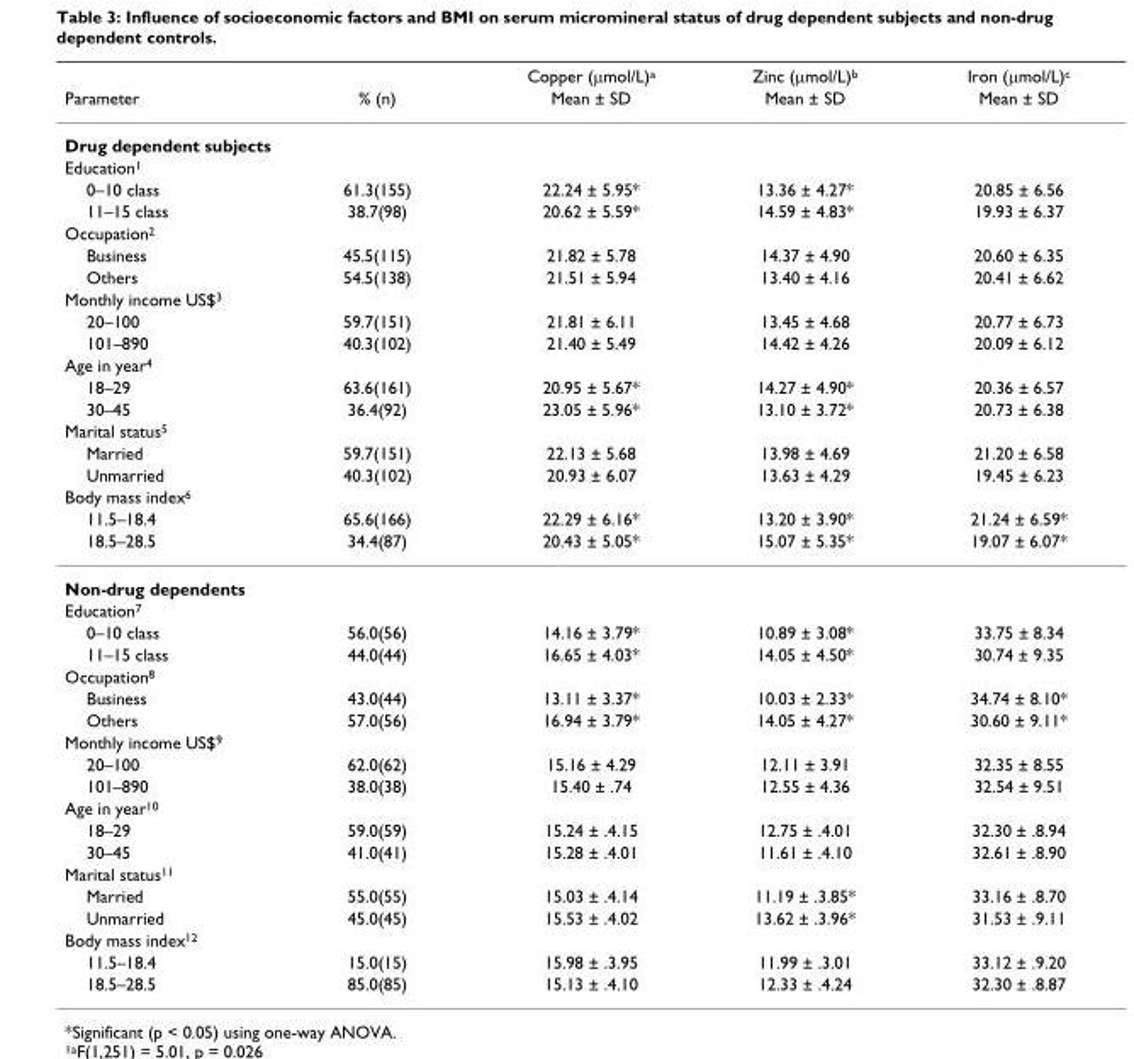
<table><thead><tr><td rowspan="2">Parameter</td><td rowspan="2">% (n)</td><td rowspan="2">Copper (μmol/L)<sup>a</sup> Mean ± SD</td><td rowspan="2">Zinc (μmol/L)<sup>b</sup> Mean ± SD</td><td rowspan="2">Iron (μmol/L)<sup>c</sup> Mean ± SD</td></tr><tr></tr></thead><tbody><tr><td colspan="5">Drug dependent subjects</td></tr><tr><td colspan="5">Education<sup>1</sup></td></tr><tr><td>0–10 class</td><td>61.3(155)</td><td>22.24 ± 5.95*</td><td>13.36 ± 4.27*</td><td>20.85 ± 6.56</td></tr><tr><td>11–15 class</td><td>38.7(98)</td><td>20.62 ± 5.59*</td><td>14.59 ± 4.83*</td><td>19.93 ± 6.37</td></tr><tr><td colspan="5">Occupation<sup>2</sup></td></tr><tr><td>Business</td><td>45.5(115)</td><td>21.82 ± 5.78</td><td>14.37 ± 4.90</td><td>20.60 ± 6.35</td></tr><tr><td>Others</td><td>54.5(138)</td><td>21.51 ± 5.94</td><td>13.40 ± 4.16</td><td>20.41 ± 6.62</td></tr><tr><td colspan="5">Monthly income US$<sup>3</sup></td></tr><tr><td>20–100</td><td>59.7(151)</td><td>21.81 ± 6.11</td><td>13.45 ± 4.68</td><td>20.77 ± 6.73</td></tr><tr><td>101–890</td><td>40.3(102)</td><td>21.40 ± 5.49</td><td>14.42 ± 4.26</td><td>20.09 ± 6.12</td></tr><tr><td colspan="5">Age in year<sup>4</sup></td></tr><tr><td>18–29</td><td>63.6(161)</td><td>20.95 ± 5.67*</td><td>14.27 ± 4.90*</td><td>20.36 ± 6.57</td></tr><tr><td>30–45</td><td>36.4(92)</td><td>23.05 ± 5.96*</td><td>13.10 ± 3.72*</td><td>20.73 ± 6.38</td></tr><tr><td colspan="5">Marital status<sup>5</sup></td></tr><tr><td>Married</td><td>59.7(151)</td><td>22.13 ± 5.68</td><td>13.98 ± 4.69</td><td>21.20 ± 6.58</td></tr><tr><td>Unmarried</td><td>40.3(102)</td><td>20.93 ± 6.07</td><td>13.63 ± 4.29</td><td>19.45 ± 6.23</td></tr><tr><td colspan="5">Body mass index<sup>6</sup></td></tr><tr><td>11.5–18.4</td><td>65.6(166)</td><td>22.29 ± 6.16*</td><td>13.20 ± 3.90*</td><td>21.24 ± 6.59*</td></tr><tr><td>18.5–28.5</td><td>34.4(87)</td><td>20.43 ± 5.05*</td><td>15.07 ± 5.35*</td><td>19.07 ± 6.07*</td></tr><tr><td colspan="5">Non-drug dependents</td></tr><tr><td colspan="5">Education<sup>7</sup></td></tr><tr><td>0–10 class</td><td>56.0(56)</td><td>14.16 ± 3.79*</td><td>10.89 ± 3.08*</td><td>33.75 ± 8.34</td></tr><tr><td>11–15 class</td><td>44.0(44)</td><td>16.65 ± 4.03*</td><td>14.05 ± 4.50*</td><td>30.74 ± 9.35</td></tr><tr><td colspan="5">Occupation<sup>8</sup></td></tr><tr><td>Business</td><td>43.0(44)</td><td>13.11 ± 3.37*</td><td>10.03 ± 2.33*</td><td>34.74 ± 8.10*</td></tr><tr><td>Others</td><td>57.0(56)</td><td>16.94 ± 3.79*</td><td>14.05 ± 4.27*</td><td>30.60 ± 9.11*</td></tr><tr><td colspan="5">Monthly income US$<sup>9</sup></td></tr><tr><td>20–100</td><td>62.0(62)</td><td>15.16 ± 4.29</td><td>12.11 ± 3.91</td><td>32.35 ± 8.55</td></tr><tr><td>101–890</td><td>38.0(38)</td><td>15.40 ± .74</td><td>12.55 ± 4.36</td><td>32.54 ± 9.51</td></tr><tr><td colspan="5">Age in year<sup>10</sup></td></tr><tr><td>18–29</td><td>59.0(59)</td><td>15.24 ± .4.15</td><td>12.75 ± .4.01</td><td>32.30 ± .8.94</td></tr><tr><td>30–45</td><td>41.0(41)</td><td>15.28 ± .4.01</td><td>11.61 ± .4.10</td><td>32.61 ± .8.90</td></tr><tr><td colspan="5">Marital status<sup>11</sup></td></tr><tr><td>Married</td><td>55.0(55)</td><td>15.03 ± .4.14</td><td>11.19 ± .3.85*</td><td>33.16 ± .8.70</td></tr><tr><td>Unmarried</td><td>45.0(45)</td><td>15.53 ± .4.02</td><td>13.62 ± .3.96*</td><td>31.53 ± .9.11</td></tr><tr><td colspan="5">Body mass index<sup>12</sup></td></tr><tr><td>11.5–18.4</td><td>15.0(15)</td><td>15.98 ± .3.95</td><td>11.99 ± .3.01</td><td>33.12 ± .9.20</td></tr><tr><td>18.5–28.5</td><td>85.0(85)</td><td>15.13 ± .4.10</td><td>12.33 ± .4.24</td><td>32.30 ± .8.87</td></tr></tbody></table>